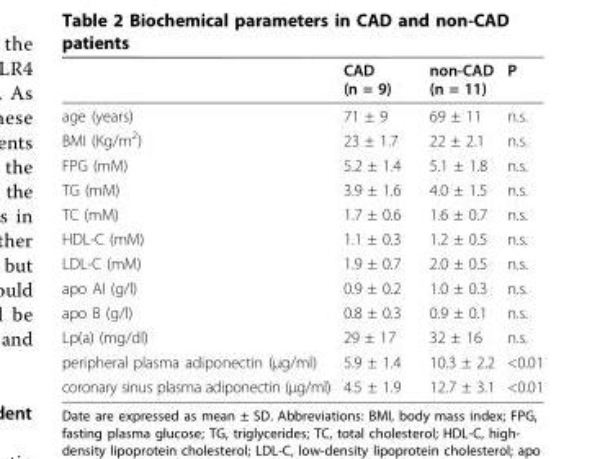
<table><thead><tr><td></td><td>CAD (n = 9)</td><td>non-CAD (n = 11)</td><td>P</td></tr></thead><tbody><tr><td>age (years)</td><td>71 ± 9</td><td>69 ± 11</td><td>n.s.</td></tr><tr><td>BMI (Kg/m<sup>2</sup>)</td><td>23 ± 1.7</td><td>22 ± 2.1</td><td>n.s.</td></tr><tr><td>FPG (mM)</td><td>5.2 ± 1.4</td><td>5.1 ± 1.8</td><td>n.s.</td></tr><tr><td>TG (mM)</td><td>3.9 ± 1.6</td><td>4.0 ± 1.5</td><td>n.s.</td></tr><tr><td>TC (mM)</td><td>1.7 ± 0.6</td><td>1.6 ± 0.7</td><td>n.s.</td></tr><tr><td>HDL-C (mM)</td><td>1.1 ± 0.3</td><td>1.2 ± 0.5</td><td>n.s.</td></tr><tr><td>LDL-C (mM)</td><td>1.9 ± 0.7</td><td>2.0 ± 0.5</td><td>n.s.</td></tr><tr><td>apo AI (g/l)</td><td>0.9 ± 0.2</td><td>1.0 ± 0.3</td><td>n.s.</td></tr><tr><td>apo B (g/l)</td><td>0.8 ± 0.3</td><td>0.9 ± 0.1</td><td>n.s.</td></tr><tr><td>Lp(a) (mg/dl)</td><td>29 ± 17</td><td>32 ± 16</td><td>n.s.</td></tr><tr><td>peripheral plasma adiponectin (μg/ml)</td><td>5.9 ± 1.4</td><td>10.3 ± 2.2</td><td>&lt;0.01</td></tr><tr><td>coronary sinus plasma adiponectin (μg/ml)</td><td>4.5 ± 1.9</td><td>12.7 ± 3.1</td><td>&lt;0.01</td></tr></tbody></table>